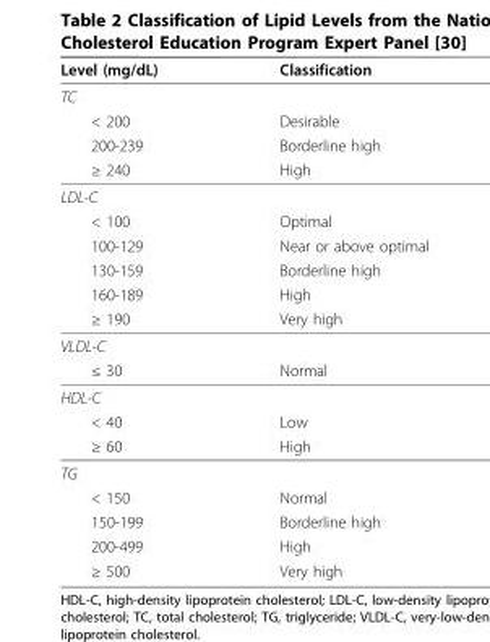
<table><thead><tr><td>Level (mg/dL)</td><td>Classification</td></tr></thead><tbody><tr><td colspan="2">TC</td></tr><tr><td>&lt; 200</td><td>Desirable</td></tr><tr><td>200-239</td><td>Borderline high</td></tr><tr><td>≥ 240</td><td>High</td></tr><tr><td colspan="2">LDL-C</td></tr><tr><td>&lt; 100</td><td>Optimal</td></tr><tr><td>100-129</td><td>Near or above optimal</td></tr><tr><td>130-159</td><td>Borderline high</td></tr><tr><td>160-189</td><td>High</td></tr><tr><td>≥ 190</td><td>Very high</td></tr><tr><td colspan="2">VLDL-C</td></tr><tr><td>≤ 30</td><td>Normal</td></tr><tr><td colspan="2">HDL-C</td></tr><tr><td>&lt; 40</td><td>Low</td></tr><tr><td>≥ 60</td><td>High</td></tr><tr><td colspan="2">TG</td></tr><tr><td>&lt; 150</td><td>Normal</td></tr><tr><td>150-199</td><td>Borderline high</td></tr><tr><td>200-499</td><td>High</td></tr><tr><td>≥ 500</td><td>Very high</td></tr></tbody></table>